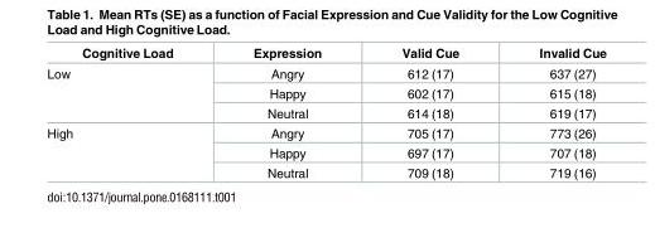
<table><thead><tr><td>Cognitive Load</td><td>Expression</td><td>Valid Cue</td><td>Invalid Cue</td></tr></thead><tbody><tr><td rowspan="3">Low</td><td>Angry</td><td>612 (17)</td><td>637 (27)</td></tr><tr><td>Happy</td><td>602 (17)</td><td>615 (18)</td></tr><tr><td>Neutral</td><td>614 (18)</td><td>619 (17)</td></tr><tr><td rowspan="3">High</td><td>Angry</td><td>705 (17)</td><td>773 (26)</td></tr><tr><td>Happy</td><td>697 (17)</td><td>707 (18)</td></tr><tr><td>Neutral</td><td>709 (18)</td><td>719 (16)</td></tr></tbody></table>